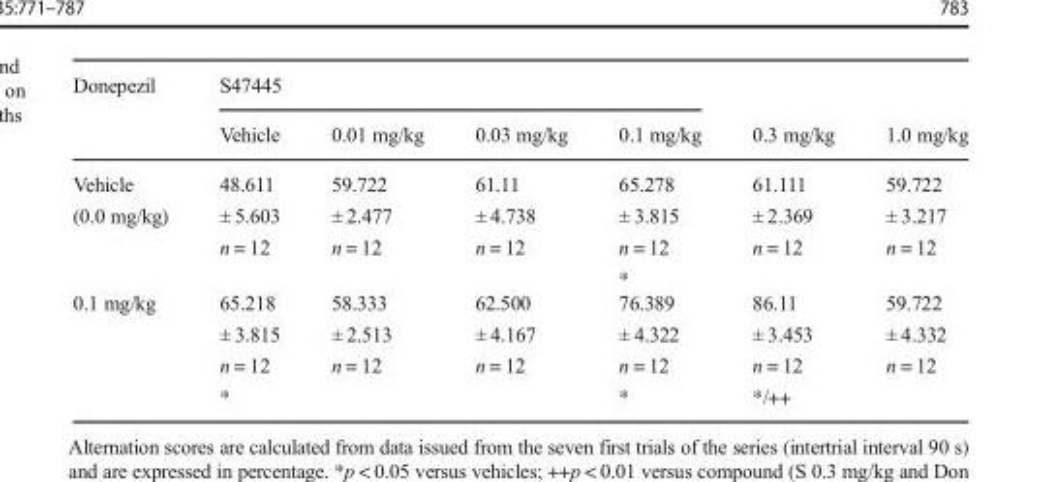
<table><thead><tr><td rowspan="2">Donepezil</td><td colspan="4">S47445</td><td rowspan="2">0.3 mg/kg</td><td rowspan="2">1.0 mg/kg</td></tr><tr><td>Vehicle</td><td>0.01 mg/kg</td><td>0.03 mg/kg</td><td>0.1 mg/kg</td></tr></thead><tbody><tr><td>Vehicle (0.0 mg/kg)</td><td>48.611 ± 5.603 n = 12</td><td>59.722 ± 2.477 n = 12</td><td>61.11 ± 4.738 n = 12</td><td>65.278 ± 3.815 n = 12 *</td><td>61.111 ± 2.369 n = 12</td><td>59.722 ± 3.217 n = 12</td></tr><tr><td>0.1 mg/kg</td><td>65.218 ± 3.815 n = 12 *</td><td>58.333 ± 2.513 n = 12</td><td>62.500 ± 4.167 n = 12</td><td>76.389 ± 4.322 n = 12 *</td><td>86.11 ± 3.453 n = 12 */++</td><td>59.722 ± 4.332 n = 12</td></tr></tbody></table>